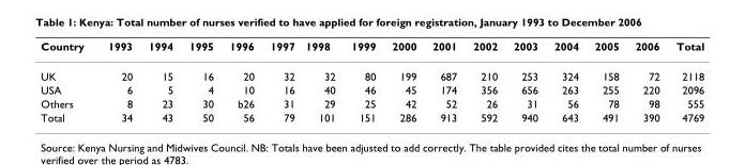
<table><thead><tr><td>Country</td><td>1993</td><td>1994</td><td>1995</td><td>1996</td><td>1997</td><td>1998</td><td>1999</td><td>2000</td><td>2001</td><td>2002</td><td>2003</td><td>2004</td><td>2005</td><td>2006</td><td>Total</td></tr></thead><tbody><tr><td>UK</td><td>20</td><td>15</td><td>16</td><td>20</td><td>32</td><td>32</td><td>80</td><td>199</td><td>687</td><td>210</td><td>253</td><td>324</td><td>158</td><td>72</td><td>2118</td></tr><tr><td>USA</td><td>6</td><td>5</td><td>4</td><td>10</td><td>16</td><td>40</td><td>46</td><td>45</td><td>174</td><td>356</td><td>656</td><td>263</td><td>255</td><td>220</td><td>2096</td></tr><tr><td>Others</td><td>8</td><td>23</td><td>30</td><td>b26</td><td>31</td><td>29</td><td>25</td><td>42</td><td>52</td><td>26</td><td>31</td><td>56</td><td>78</td><td>98</td><td>555</td></tr><tr><td>Total</td><td>34</td><td>43</td><td>50</td><td>56</td><td>79</td><td>101</td><td>151</td><td>286</td><td>913</td><td>592</td><td>940</td><td>643</td><td>491</td><td>390</td><td>4769</td></tr></tbody></table>